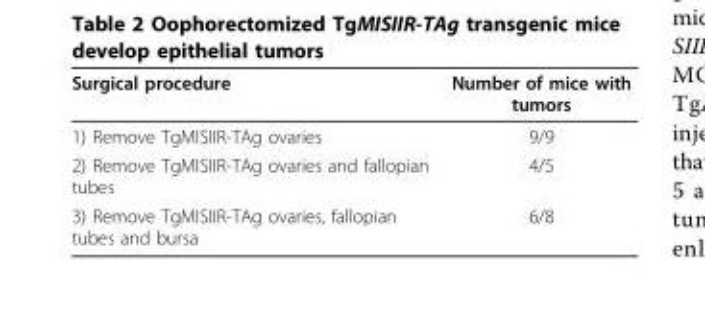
<table><thead><tr><td>Surgical procedure</td><td>Number of mice with tumors</td></tr></thead><tbody><tr><td>1) Remove TgMISIIR-TAg ovaries</td><td>9/9</td></tr><tr><td>2) Remove TgMISIIR-TAg ovaries and fallopian tubes</td><td>4/5</td></tr><tr><td>3) Remove TgMISIIR-TAg ovaries, fallopian tubes and bursa</td><td>6/8</td></tr></tbody></table>